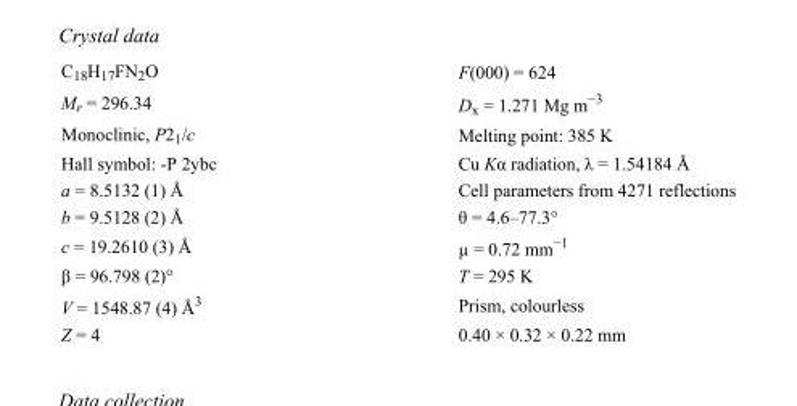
<table><tbody><tr><td>C<sub>18</sub>H<sub>17</sub>FN<sub>2</sub>O</td><td>F(000) = 624</td></tr><tr><td>M<sub>r</sub> = 296.34</td><td>D<sub>x</sub> = 1.271 Mg m<sup>−3</sup></td></tr><tr><td>Monoclinic, P2<sub>1</sub>/c</td><td>Melting point: 385 K</td></tr><tr><td>Hall symbol: -P 2ybc</td><td>Cu Kα radiation, λ = 1.54184 Å</td></tr><tr><td>a = 8.5132 (1) Å</td><td>Cell parameters from 4271 reflections</td></tr><tr><td>b = 9.5128 (2) Å</td><td>θ = 4.6–77.3°</td></tr><tr><td>c = 19.2610 (3) Å</td><td>µ = 0.72 mm<sup>−1</sup></td></tr><tr><td>β = 96.798 (2)°</td><td>T = 295 K</td></tr><tr><td>V = 1548.87 (4) Å<sup>3</sup></td><td>Prism, colourless</td></tr><tr><td>Z = 4</td><td>0.40 × 0.32 × 0.22 mm</td></tr></tbody></table>